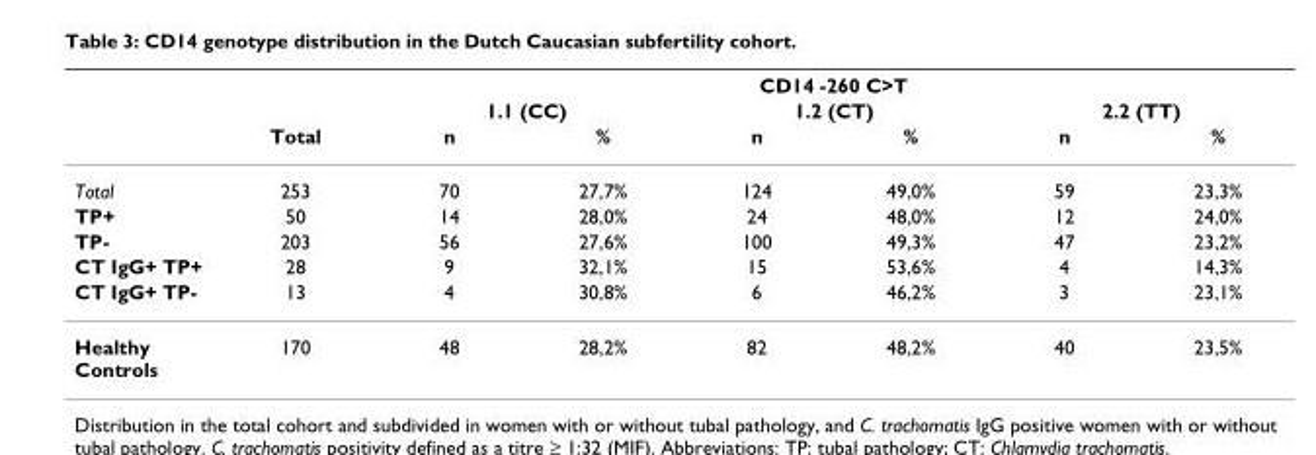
<table><thead><tr><td rowspan="3"></td><td rowspan="3">Total</td><td></td><td></td><td rowspan="2" colspan="2">CD14 -260 C&gt;T 1.2 (CT)</td><td></td><td></td></tr><tr><td colspan="2">1.1 (CC)</td><td colspan="2">2.2 (TT)</td></tr><tr><td>n</td><td>%</td><td>n</td><td>%</td><td>n</td><td>%</td></tr></thead><tbody><tr><td>Total</td><td>253</td><td>70</td><td>27,7%</td><td>124</td><td>49,0%</td><td>59</td><td>23,3%</td></tr><tr><td>TP+</td><td>50</td><td>14</td><td>28,0%</td><td>24</td><td>48,0%</td><td>12</td><td>24,0%</td></tr><tr><td>TP-</td><td>203</td><td>56</td><td>27,6%</td><td>100</td><td>49,3%</td><td>47</td><td>23,2%</td></tr><tr><td>CT IgG+ TP+</td><td>28</td><td>9</td><td>32,1%</td><td>15</td><td>53,6%</td><td>4</td><td>14,3%</td></tr><tr><td>CT IgG+ TP-</td><td>13</td><td>4</td><td>30,8%</td><td>6</td><td>46,2%</td><td>3</td><td>23,1%</td></tr><tr><td>Healthy Controls</td><td>170</td><td>48</td><td>28,2%</td><td>82</td><td>48,2%</td><td>40</td><td>23,5%</td></tr></tbody></table>